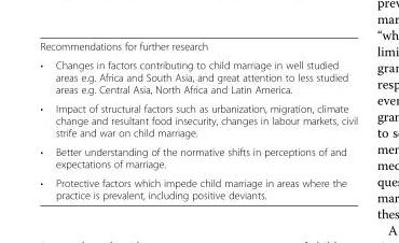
<table><tbody><tr><td colspan="2">Recommendations for further research</td></tr><tr><td>•</td><td>Changes in factors contributing to child marriage in well studied areas e.g. Africa and South Asia, and great attention to less studied areas e.g. Central Asia, North Africa and Latin America.</td></tr><tr><td>•</td><td>Impact of structural factors such as urbanization, migration, climate change and resultant food insecurity, changes in labour markets, civil strife and war on child marriage.</td></tr><tr><td>•</td><td>Better understanding of the normative shifts in perceptions of and expectations of marriage.</td></tr><tr><td>•</td><td>Protective factors which impede child marriage in areas where the practice is prevalent, including positive deviants.</td></tr></tbody></table>